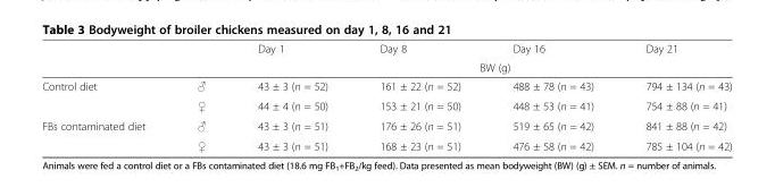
<table><thead><tr><td rowspan="2"></td><td rowspan="2"></td><td>Day 1</td><td>Day 8</td><td>Day 16</td><td>Day 21</td></tr><tr><td colspan="4">BW (g)</td></tr></thead><tbody><tr><td rowspan="2">Control diet</td><td>♂</td><td>43 ± 3 (n = 52)</td><td>161 ± 22 (n = 52)</td><td>488 ± 78 (n = 43)</td><td>794 ± 134 (n = 43)</td></tr><tr><td>♀</td><td>44 ± 4 (n = 50)</td><td>153 ± 21 (n = 50)</td><td>448 ± 53 (n = 41)</td><td>754 ± 88 (n = 41)</td></tr><tr><td rowspan="2">FBs contaminated diet</td><td>♂</td><td>43 ± 3 (n = 51)</td><td>176 ± 26 (n = 51)</td><td>519 ± 65 (n = 42)</td><td>841 ± 88 (n = 42)</td></tr><tr><td>♀</td><td>43 ± 3 (n = 51)</td><td>168 ± 23 (n = 51)</td><td>476 ± 58 (n = 42)</td><td>785 ± 104 (n = 42)</td></tr></tbody></table>